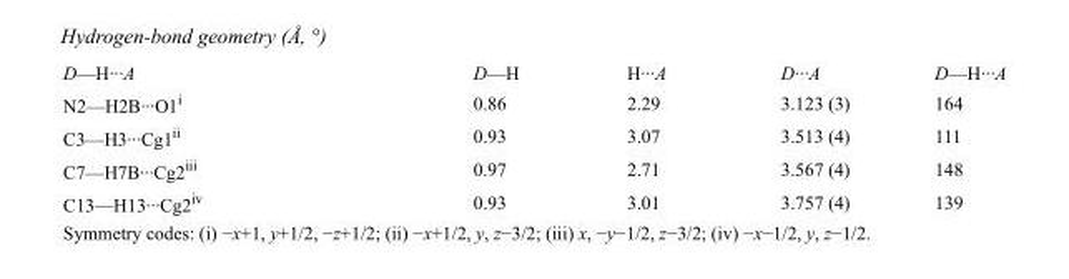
<table><tbody><tr><td>D—H···A</td><td>D—H</td><td>H···A</td><td>D···A</td><td>D—H···A</td></tr><tr><td>N2—H2B···O1<sup>i</sup></td><td>0.86</td><td>2.29</td><td>3.123 (3)</td><td>164</td></tr><tr><td>C3—H3···Cg1<sup>ii</sup></td><td>0.93</td><td>3.07</td><td>3.513 (4)</td><td>111</td></tr><tr><td>C7—H7B···Cg2<sup>iii</sup></td><td>0.97</td><td>2.71</td><td>3.567 (4)</td><td>148</td></tr><tr><td>C13—H13···Cg2<sup>iv</sup></td><td>0.93</td><td>3.01</td><td>3.757 (4)</td><td>139</td></tr></tbody></table>